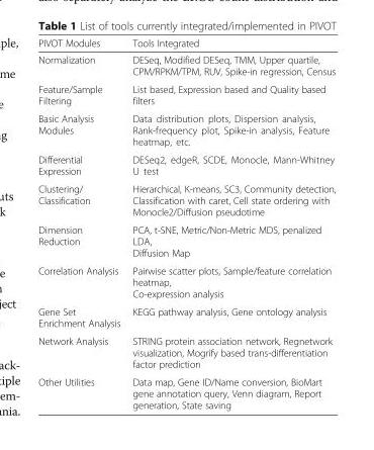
<table><thead><tr><td>PIVOT Modules</td><td>Tools Integrated</td></tr></thead><tbody><tr><td>Normalization</td><td>DESeq, Modified DESeq, TMM, Upper quartile, CPM/RPKM/TPM, RUV, Spike-in regression, Census</td></tr><tr><td>Feature/Sample Filtering</td><td>List based, Expression based and Quality based filters</td></tr><tr><td>Basic Analysis Modules</td><td>Data distribution plots, Dispersion analysis, Rank-frequency plot, Spike-in analysis, Feature heatmap, etc.</td></tr><tr><td>Differential Expression</td><td>DESeq2, edgeR, SCDE, Monocle, Mann-Whitney U test</td></tr><tr><td>Clustering/ Classification</td><td>Hierarchical, K-means, SC3, Community detection, Classification with caret, Cell state ordering with Monocle2/Diffusion pseudotime</td></tr><tr><td>Dimension Reduction</td><td>PCA, t-SNE, Metric/Non-Metric MDS, penalized LDA, Diffusion Map</td></tr><tr><td>Correlation Analysis</td><td>Pairwise scatter plots, Sample/feature correlation heatmap, Co-expression analysis</td></tr><tr><td>Gene Set Enrichment Analysis</td><td>KEGG pathway analysis, Gene ontology analysis</td></tr><tr><td>Network Analysis</td><td>STRING protein association network, Regnetwork visualization, Mogrify based trans-differentiation factor prediction</td></tr><tr><td>Other Utilities</td><td>Data map, Gene ID/Name conversion, BioMart gene annotation query, Venn diagram, Report generation, State saving</td></tr></tbody></table>